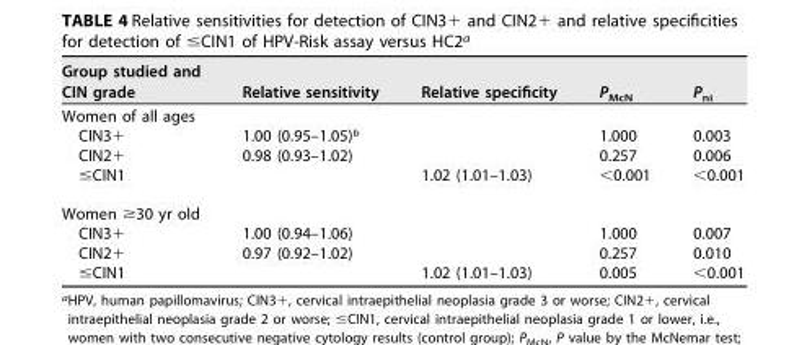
<table><thead><tr><td>Group studied and CIN grade</td><td>Relative sensitivity</td><td>Relative specificity</td><td>P<sub>McN</sub></td><td>P<sub>ni</sub></td></tr></thead><tbody><tr><td colspan="5">Women of all ages</td></tr><tr><td>CIN3+</td><td>1.00 (0.95–1.05)<sup>b</sup></td><td></td><td>1.000</td><td>0.003</td></tr><tr><td>CIN2+</td><td>0.98 (0.93–1.02)</td><td></td><td>0.257</td><td>0.006</td></tr><tr><td>≤CIN1</td><td></td><td>1.02 (1.01–1.03)</td><td>&lt;0.001</td><td>&lt;0.001</td></tr><tr><td colspan="5">Women ≥30 yr old</td></tr><tr><td>CIN3+</td><td>1.00 (0.94–1.06)</td><td></td><td>1.000</td><td>0.007</td></tr><tr><td>CIN2+</td><td>0.97 (0.92–1.02)</td><td></td><td>0.257</td><td>0.010</td></tr><tr><td>≤CIN1</td><td></td><td>1.02 (1.01–1.03)</td><td>0.005</td><td>&lt;0.001</td></tr></tbody></table>